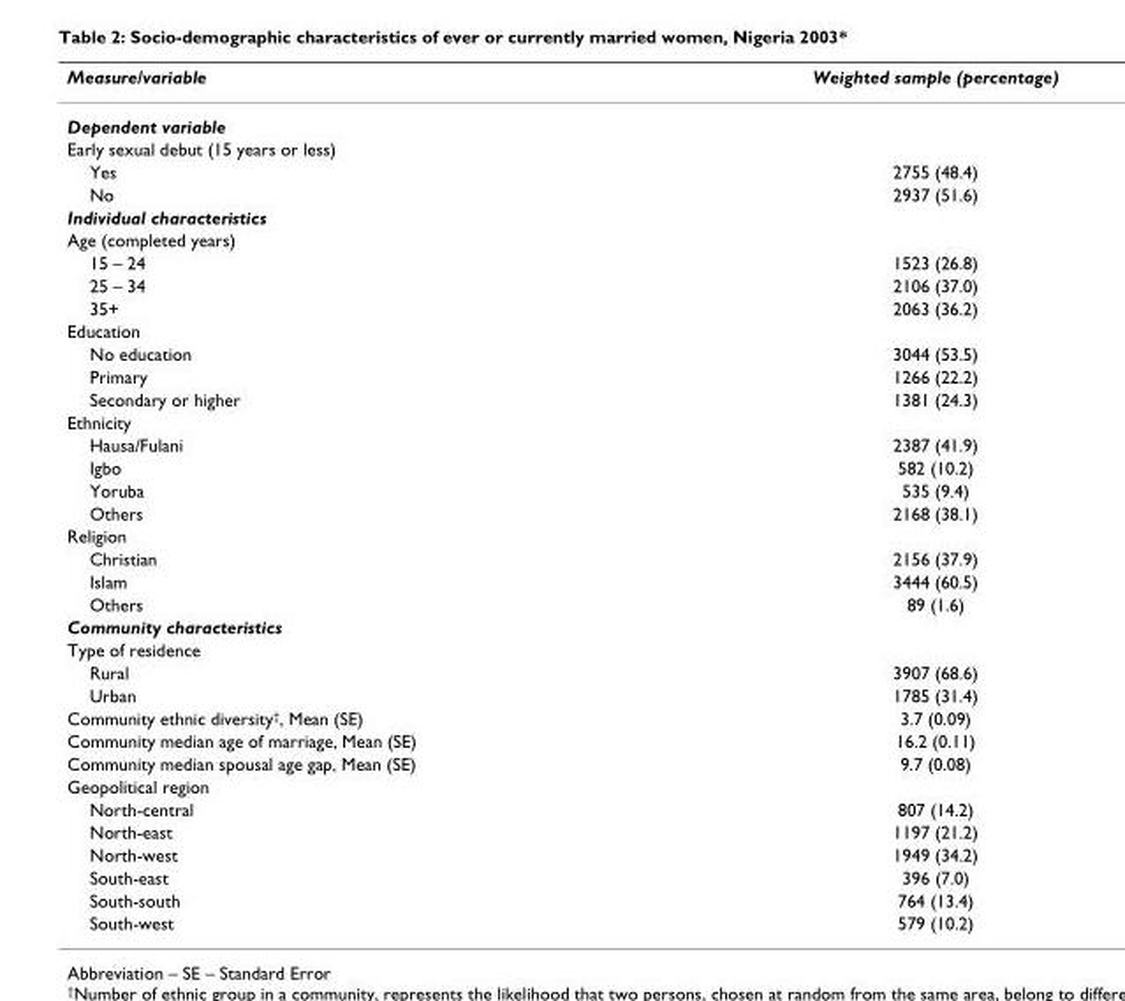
<table><thead><tr><td>Measure/variable</td><td>Weighted sample (percentage)</td></tr></thead><tbody><tr><td colspan="2">Dependent variable</td></tr><tr><td colspan="2">Early sexual debut (15 years or less)</td></tr><tr><td>Yes</td><td>2755 (48.4)</td></tr><tr><td>No</td><td>2937 (51.6)</td></tr><tr><td colspan="2">Individual characteristics</td></tr><tr><td colspan="2">Age (completed years)</td></tr><tr><td>15 – 24</td><td>1523 (26.8)</td></tr><tr><td>25 – 34</td><td>2106 (37.0)</td></tr><tr><td>35+</td><td>2063 (36.2)</td></tr><tr><td colspan="2">Education</td></tr><tr><td>No education</td><td>3044 (53.5)</td></tr><tr><td>Primary</td><td>1266 (22.2)</td></tr><tr><td>Secondary or higher</td><td>1381 (24.3)</td></tr><tr><td colspan="2">Ethnicity</td></tr><tr><td>Hausa/Fulani</td><td>2387 (41.9)</td></tr><tr><td>Igbo</td><td>582 (10.2)</td></tr><tr><td>Yoruba</td><td>535 (9.4)</td></tr><tr><td>Others</td><td>2168 (38.1)</td></tr><tr><td colspan="2">Religion</td></tr><tr><td>Christian</td><td>2156 (37.9)</td></tr><tr><td>Islam</td><td>3444 (60.5)</td></tr><tr><td>Others</td><td>89 (1.6)</td></tr><tr><td colspan="2">Community characteristics</td></tr><tr><td colspan="2">Type of residence</td></tr><tr><td>Rural</td><td>3907 (68.6)</td></tr><tr><td>Urban</td><td>1785 (31.4)</td></tr><tr><td>Community ethnic diversity<sup>†</sup>, Mean (SE)</td><td>3.7 (0.09)</td></tr><tr><td>Community median age of marriage, Mean (SE)</td><td>16.2 (0.11)</td></tr><tr><td>Community median spousal age gap, Mean (SE)</td><td>9.7 (0.08)</td></tr><tr><td colspan="2">Geopolitical region</td></tr><tr><td>North-central</td><td>807 (14.2)</td></tr><tr><td>North-east</td><td>1197 (21.2)</td></tr><tr><td>North-west</td><td>1949 (34.2)</td></tr><tr><td>South-east</td><td>396 (7.0)</td></tr><tr><td>South-south</td><td>764 (13.4)</td></tr><tr><td>South-west</td><td>579 (10.2)</td></tr></tbody></table>